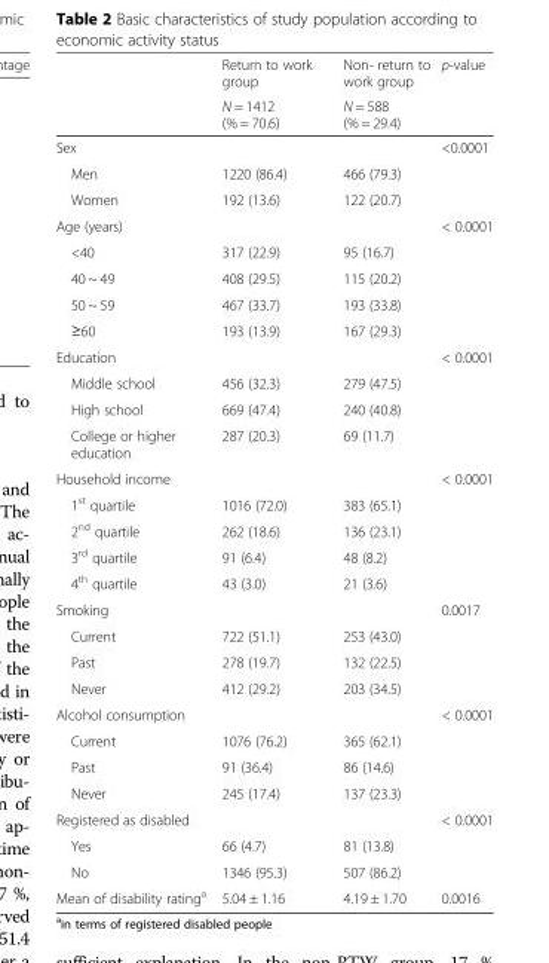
<table><thead><tr><td rowspan="2"></td><td rowspan="2">Return to work group N = 1412 (% = 70.6)</td><td rowspan="2">Non- return to work group N = 588 (% = 29.4)</td><td rowspan="2">p-value</td></tr><tr></tr></thead><tbody><tr><td>Sex</td><td></td><td></td><td>&lt;0.0001</td></tr><tr><td>Men</td><td>1220 (86.4)</td><td>466 (79.3)</td><td></td></tr><tr><td>Women</td><td>192 (13.6)</td><td>122 (20.7)</td><td></td></tr><tr><td>Age (years)</td><td></td><td></td><td>&lt; 0.0001</td></tr><tr><td>&lt;40</td><td>317 (22.9)</td><td>95 (16.7)</td><td></td></tr><tr><td>40 ~ 49</td><td>408 (29.5)</td><td>115 (20.2)</td><td></td></tr><tr><td>50 ~ 59</td><td>467 (33.7)</td><td>193 (33.8)</td><td></td></tr><tr><td>≥60</td><td>193 (13.9)</td><td>167 (29.3)</td><td></td></tr><tr><td>Education</td><td></td><td></td><td>&lt; 0.0001</td></tr><tr><td>Middle school</td><td>456 (32.3)</td><td>279 (47.5)</td><td></td></tr><tr><td>High school</td><td>669 (47.4)</td><td>240 (40.8)</td><td></td></tr><tr><td>College or higher education</td><td>287 (20.3)</td><td>69 (11.7)</td><td></td></tr><tr><td>Household income</td><td></td><td></td><td>&lt; 0.0001</td></tr><tr><td>1<sup>st</sup> quartile</td><td>1016 (72.0)</td><td>383 (65.1)</td><td></td></tr><tr><td>2<sup>nd</sup> quartile</td><td>262 (18.6)</td><td>136 (23.1)</td><td></td></tr><tr><td>3<sup>rd</sup> quartile</td><td>91 (6.4)</td><td>48 (8.2)</td><td></td></tr><tr><td>4<sup>th</sup> quartile</td><td>43 (3.0)</td><td>21 (3.6)</td><td></td></tr><tr><td>Smoking</td><td></td><td></td><td>0.0017</td></tr><tr><td>Current</td><td>722 (51.1)</td><td>253 (43.0)</td><td></td></tr><tr><td>Past</td><td>278 (19.7)</td><td>132 (22.5)</td><td></td></tr><tr><td>Never</td><td>412 (29.2)</td><td>203 (34.5)</td><td></td></tr><tr><td>Alcohol consumption</td><td></td><td></td><td>&lt; 0.0001</td></tr><tr><td>Current</td><td>1076 (76.2)</td><td>365 (62.1)</td><td></td></tr><tr><td>Past</td><td>91 (36.4)</td><td>86 (14.6)</td><td></td></tr><tr><td>Never</td><td>245 (17.4)</td><td>137 (23.3)</td><td></td></tr><tr><td>Registered as disabled</td><td></td><td></td><td>&lt; 0.0001</td></tr><tr><td>Yes</td><td>66 (4.7)</td><td>81 (13.8)</td><td></td></tr><tr><td>No</td><td>1346 (95.3)</td><td>507 (86.2)</td><td></td></tr><tr><td>Mean of disability rating<sup>a</sup></td><td>5.04 ± 1.16</td><td>4.19 ± 1.70</td><td>0.0016</td></tr></tbody></table>